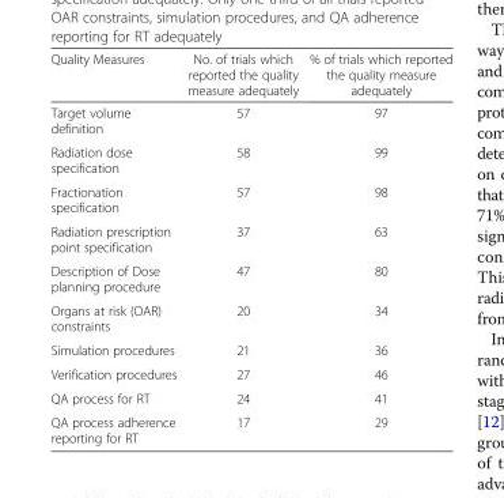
<table><thead><tr><td>Quality Measures</td><td>No. of trials which reported the quality measure adequately</td><td>% of trials which reported the quality measure adequately</td></tr></thead><tbody><tr><td>Target volume definition</td><td>57</td><td>97</td></tr><tr><td>Radiation dose specification</td><td>58</td><td>99</td></tr><tr><td>Fractionation specification</td><td>57</td><td>98</td></tr><tr><td>Radiation prescription point specification</td><td>37</td><td>63</td></tr><tr><td>Description of Dose planning procedure</td><td>47</td><td>80</td></tr><tr><td>Organs at risk (OAR) constraints</td><td>20</td><td>34</td></tr><tr><td>Simulation procedures</td><td>21</td><td>36</td></tr><tr><td>Verification procedures</td><td>27</td><td>46</td></tr><tr><td>QA process for RT</td><td>24</td><td>41</td></tr><tr><td>QA process adherence reporting for RT</td><td>17</td><td>29</td></tr></tbody></table>